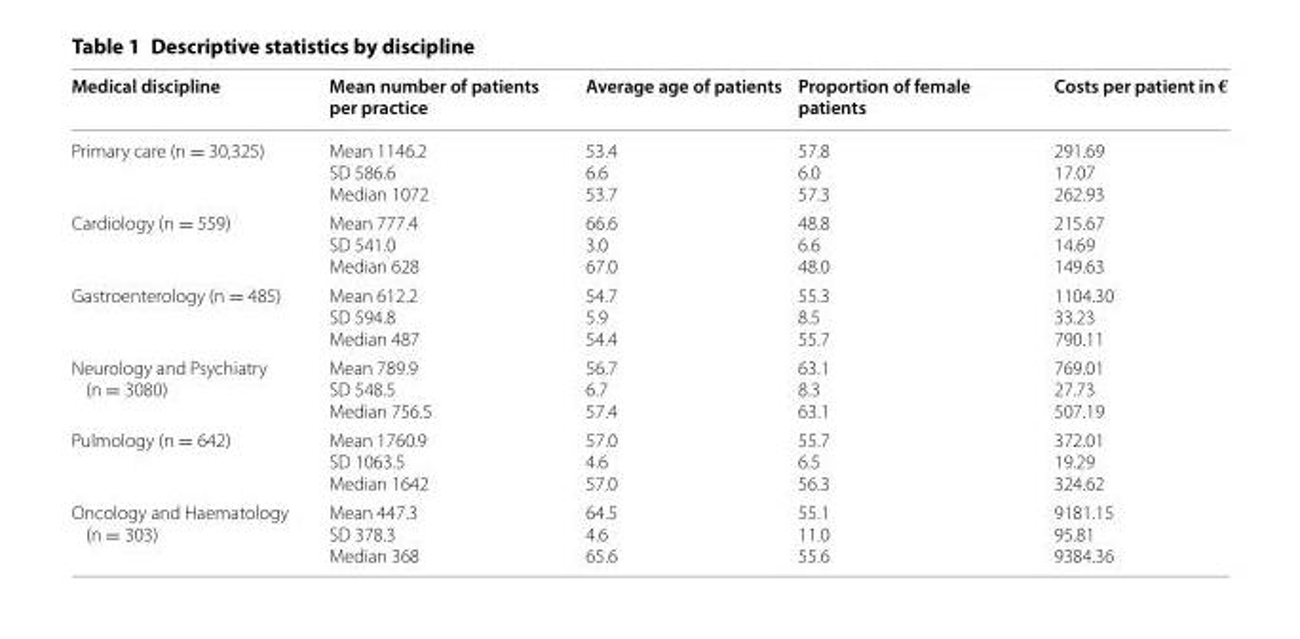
<table><thead><tr><td>Medical discipline</td><td>Mean number of patients per practice</td><td>Average age of patients</td><td>Proportion of female patients</td><td>Costs per patient in €</td></tr></thead><tbody><tr><td>Primary care (n = 30,325)</td><td>Mean 1146.2 SD 586.6 Median 1072</td><td>53.4 6.6 53.7</td><td>57.8 6.0 57.3</td><td>291.69 17.07 262.93</td></tr><tr><td>Cardiology (n = 559)</td><td>Mean 777.4 SD 541.0 Median 628</td><td>66.6 3.0 67.0</td><td>48.8 6.6 48.0</td><td>215.67 14.69 149.63</td></tr><tr><td>Gastroenterology (n = 485)</td><td>Mean 612.2 SD 594.8 Median 487</td><td>54.7 5.9 54.4</td><td>55.3 8.5 55.7</td><td>1104.30 33.23 790.11</td></tr><tr><td>Neurology and Psychiatry (n = 3080)</td><td>Mean 789.9 SD 548.5 Median 756.5</td><td>56.7 6.7 57.4</td><td>63.1 8.3 63.1</td><td>769.01 27.73 507.19</td></tr><tr><td>Pulmology (n = 642)</td><td>Mean 1760.9 SD 1063.5 Median 1642</td><td>57.0 4.6 57.0</td><td>55.7 6.5 56.3</td><td>372.01 19.29 324.62</td></tr><tr><td>Oncology and Haematology (n = 303)</td><td>Mean 447.3 SD 378.3 Median 368</td><td>64.5 4.6 65.6</td><td>55.1 11.0 55.6</td><td>9181.15 95.81 9384.36</td></tr></tbody></table>